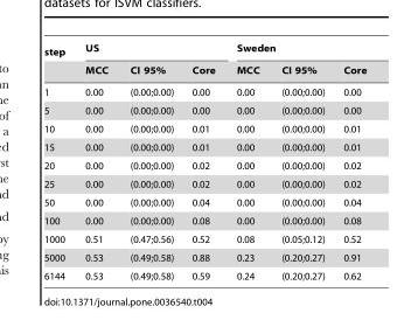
<table><thead><tr><td rowspan="2">step</td><td colspan="3">US</td><td colspan="3">Sweden</td></tr><tr><td>MCC</td><td>CI 95%</td><td>Core</td><td>MCC</td><td>CI 95%</td><td>Core</td></tr></thead><tbody><tr><td>1</td><td>0.00</td><td>(0.00;0.00)</td><td>0.00</td><td>0.00</td><td>(0.00;0.00)</td><td>0.00</td></tr><tr><td>5</td><td>0.00</td><td>(0.00;0.00)</td><td>0.00</td><td>0.00</td><td>(0.00;0.00)</td><td>0.00</td></tr><tr><td>10</td><td>0.00</td><td>(0.00;0.00)</td><td>0.01</td><td>0.00</td><td>(0.00;0.00)</td><td>0.01</td></tr><tr><td>15</td><td>0.00</td><td>(0.00;0.00)</td><td>0.01</td><td>0.00</td><td>(0.00;0.00)</td><td>0.01</td></tr><tr><td>20</td><td>0.00</td><td>(0.00;0.00)</td><td>0.02</td><td>0.00</td><td>(0.00;0.00)</td><td>0.02</td></tr><tr><td>25</td><td>0.00</td><td>(0.00;0.00)</td><td>0.02</td><td>0.00</td><td>(0.00;0.00)</td><td>0.02</td></tr><tr><td>50</td><td>0.00</td><td>(0.00;0.00)</td><td>0.04</td><td>0.00</td><td>(0.00;0.00)</td><td>0.04</td></tr><tr><td>100</td><td>0.00</td><td>(0.00;0.00)</td><td>0.08</td><td>0.00</td><td>(0.00;0.00)</td><td>0.08</td></tr><tr><td>1000</td><td>0.51</td><td>(0.47;0.56)</td><td>0.52</td><td>0.08</td><td>(0.05;0.12)</td><td>0.52</td></tr><tr><td>5000</td><td>0.53</td><td>(0.49;0.58)</td><td>0.88</td><td>0.23</td><td>(0.20;0.27)</td><td>0.91</td></tr><tr><td>6144</td><td>0.53</td><td>(0.49;0.58)</td><td>0.59</td><td>0.24</td><td>(0.20;0.27)</td><td>0.62</td></tr></tbody></table>